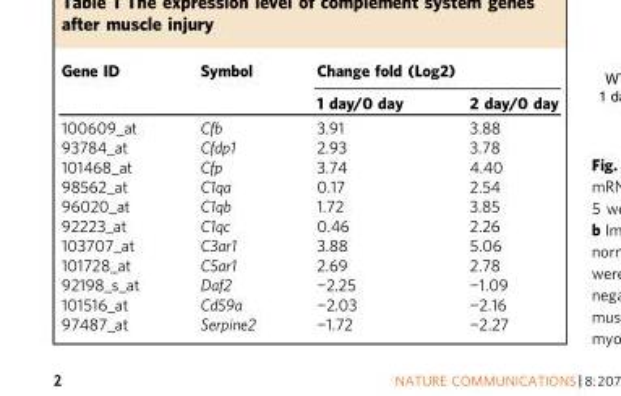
<table><thead><tr><td rowspan="2">Gene ID</td><td rowspan="2">Symbol</td><td colspan="2">Change fold (Log2)</td></tr><tr><td>1 day/0 day</td><td>2 day/0 day</td></tr></thead><tbody><tr><td>100609_at</td><td>Cfb</td><td>3.91</td><td>3.88</td></tr><tr><td>93784_at</td><td>Cfdp1</td><td>2.93</td><td>3.78</td></tr><tr><td>101468_at</td><td>Cfp</td><td>3.74</td><td>4.40</td></tr><tr><td>98562_at</td><td>C1qa</td><td>0.17</td><td>2.54</td></tr><tr><td>96020_at</td><td>C1qb</td><td>1.72</td><td>3.85</td></tr><tr><td>92223_at</td><td>C1qc</td><td>0.46</td><td>2.26</td></tr><tr><td>103707_at</td><td>C3ar1</td><td>3.88</td><td>5.06</td></tr><tr><td>101728_at</td><td>C5ar1</td><td>2.69</td><td>2.78</td></tr><tr><td>92198_s_at</td><td>Daf2</td><td>−2.25</td><td>−1.09</td></tr><tr><td>101516_at</td><td>Cd59a</td><td>−2.03</td><td>−2.16</td></tr><tr><td>97487_at</td><td>Serpine2</td><td>−1.72</td><td>−2.27</td></tr></tbody></table>